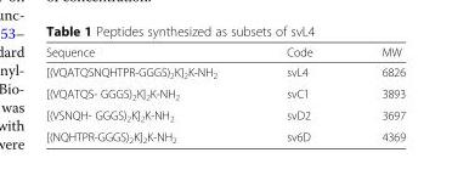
<table><thead><tr><td>Sequence</td><td>Code</td><td>MW</td></tr></thead><tbody><tr><td>[(VQATQSNQHTPR-GGGS)<sub>2</sub>K]<sub>2</sub>K-NH<sub>2</sub></td><td>svL4</td><td>6826</td></tr><tr><td>[(VQATQS- GGGS)<sub>2</sub>K]<sub>2</sub>K-NH<sub>2</sub></td><td>svC1</td><td>3893</td></tr><tr><td>[(VSNQH- GGGS)<sub>2</sub>K]<sub>2</sub>K-NH<sub>2</sub></td><td>svD2</td><td>3697</td></tr><tr><td>[(NQHTPR-GGGS)<sub>2</sub>K]<sub>2</sub>K-NH<sub>2</sub></td><td>sv6D</td><td>4369</td></tr></tbody></table>